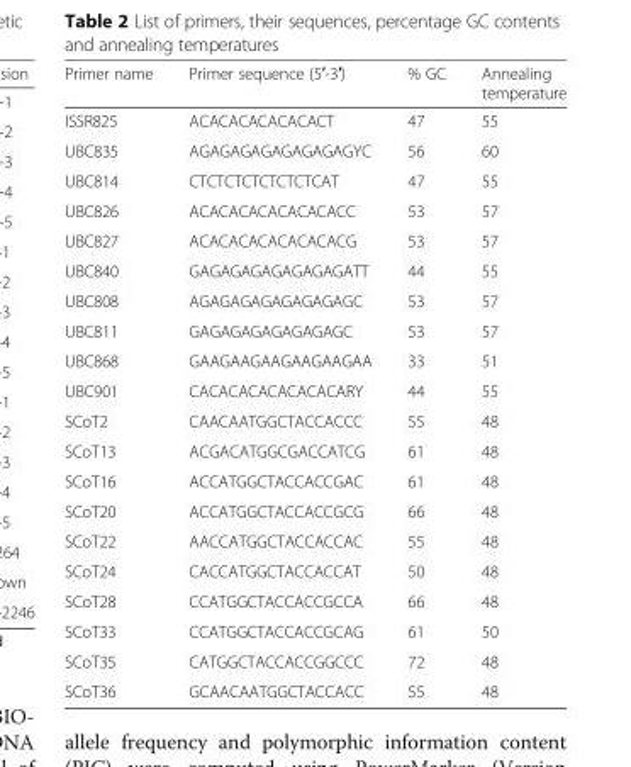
<table><thead><tr><td>Primer name</td><td>Primer sequence (5′-3′)</td><td>% GC</td><td>Annealing temperature</td></tr></thead><tbody><tr><td>ISSR825</td><td>ACACACACACACACT</td><td>47</td><td>55</td></tr><tr><td>UBC835</td><td>AGAGAGAGAGAGAGAGYC</td><td>56</td><td>60</td></tr><tr><td>UBC814</td><td>CTCTCTCTCTCTCTCAT</td><td>47</td><td>55</td></tr><tr><td>UBC826</td><td>ACACACACACACACACC</td><td>53</td><td>57</td></tr><tr><td>UBC827</td><td>ACACACACACACACACG</td><td>53</td><td>57</td></tr><tr><td>UBC840</td><td>GAGAGAGAGAGAGAGATT</td><td>44</td><td>55</td></tr><tr><td>UBC808</td><td>AGAGAGAGAGAGAGAGC</td><td>53</td><td>57</td></tr><tr><td>UBC811</td><td>GAGAGAGAGAGAGAGC</td><td>53</td><td>57</td></tr><tr><td>UBC868</td><td>GAAGAAGAAGAAGAAGAA</td><td>33</td><td>51</td></tr><tr><td>UBC901</td><td>CACACACACACACACARY</td><td>44</td><td>55</td></tr><tr><td>SCoT2</td><td>CAACAATGGCTACCACCC</td><td>55</td><td>48</td></tr><tr><td>SCoT13</td><td>ACGACATGGCGACCATCG</td><td>61</td><td>48</td></tr><tr><td>SCoT16</td><td>ACCATGGCTACCACCGAC</td><td>61</td><td>48</td></tr><tr><td>SCoT20</td><td>ACCATGGCTACCACCGCG</td><td>66</td><td>48</td></tr><tr><td>SCoT22</td><td>AACCATGGCTACCACCAC</td><td>55</td><td>48</td></tr><tr><td>SCoT24</td><td>CACCATGGCTACCACCAT</td><td>50</td><td>48</td></tr><tr><td>SCoT28</td><td>CCATGGCTACCACCGCCA</td><td>66</td><td>48</td></tr><tr><td>SCoT33</td><td>CCATGGCTACCACCGCAG</td><td>61</td><td>50</td></tr><tr><td>SCoT35</td><td>CATGGCTACCACCGGCCC</td><td>72</td><td>48</td></tr><tr><td>SCoT36</td><td>GCAACAATGGCTACCACC</td><td>55</td><td>48</td></tr></tbody></table>